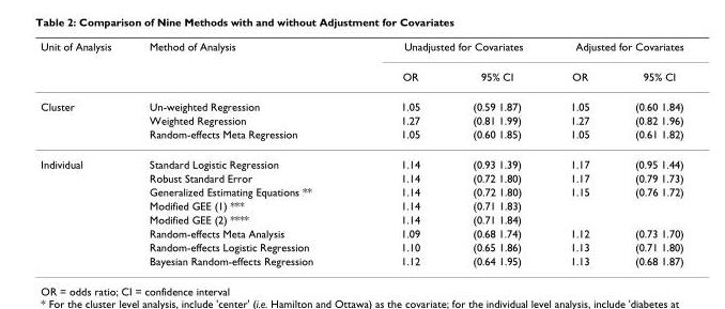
<table><thead><tr><td rowspan="2">Unit of Analysis</td><td rowspan="2">Method of Analysis</td><td colspan="2">Unadjusted for Covariates</td><td colspan="2">Adjusted for Covariates</td></tr><tr><td>OR</td><td>95% CI</td><td>OR</td><td>95% CI</td></tr></thead><tbody><tr><td rowspan="3">Cluster</td><td>Un-weighted Regression</td><td>1.05</td><td>(0.59 1.87)</td><td>1.05</td><td>(0.60 1.84)</td></tr><tr><td>Weighted Regression</td><td>1.27</td><td>(0.81 1.99)</td><td>1.27</td><td>(0.82 1.96)</td></tr><tr><td>Random-effects Meta Regression</td><td>1.05</td><td>(0.60 1.85)</td><td>1.05</td><td>(0.61 1.82)</td></tr><tr><td rowspan="8">Individual</td><td>Standard Logistic Regression</td><td>1.14</td><td>(0.93 1.39)</td><td>1.17</td><td>(0.95 1.44)</td></tr><tr><td>Robust Standard Error</td><td>1.14</td><td>(0.72 1.80)</td><td>1.17</td><td>(0.79 1.73)</td></tr><tr><td>Generalized Estimating Equations **</td><td>1.14</td><td>(0.72 1.80)</td><td>1.15</td><td>(0.76 1.72)</td></tr><tr><td>Modified GEE (1) ***</td><td>1.14</td><td>(0.71 1.83)</td><td></td><td></td></tr><tr><td>Modified GEE (2) ****</td><td>1.14</td><td>(0.71 1.84)</td><td></td><td></td></tr><tr><td>Random-effects Meta Analysis</td><td>1.09</td><td>(0.68 1.74)</td><td>1.12</td><td>(0.73 1.70)</td></tr><tr><td>Random-effects Logistic Regression</td><td>1.10</td><td>(0.65 1.86)</td><td>1.13</td><td>(0.71 1.80)</td></tr><tr><td>Bayesian Random-effects Regression</td><td>1.12</td><td>(0.64 1.95)</td><td>1.13</td><td>(0.68 1.87)</td></tr></tbody></table>